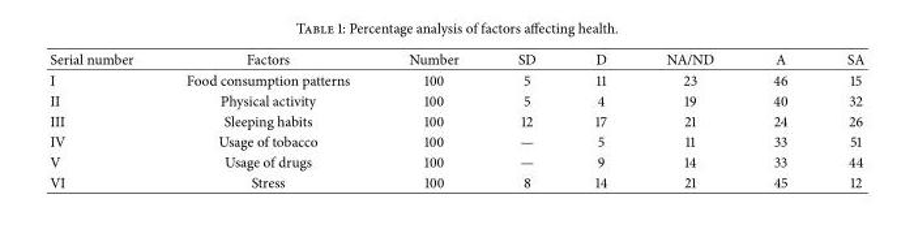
<table><thead><tr><td>Serial number</td><td>Factors</td><td>Number</td><td>SD</td><td>D</td><td>NA/ND</td><td>A</td><td>SA</td></tr></thead><tbody><tr><td>I</td><td>Food consumption patterns</td><td>100</td><td>5</td><td>11</td><td>23</td><td>46</td><td>15</td></tr><tr><td>II</td><td>Physical activity</td><td>100</td><td>5</td><td>4</td><td>19</td><td>40</td><td>32</td></tr><tr><td>III</td><td>Sleeping habits</td><td>100</td><td>12</td><td>17</td><td>21</td><td>24</td><td>26</td></tr><tr><td>IV</td><td>Usage of tobacco</td><td>100</td><td>—</td><td>5</td><td>11</td><td>33</td><td>51</td></tr><tr><td>V</td><td>Usage of drugs</td><td>100</td><td>—</td><td>9</td><td>14</td><td>33</td><td>44</td></tr><tr><td>VI</td><td>Stress</td><td>100</td><td>8</td><td>14</td><td>21</td><td>45</td><td>12</td></tr></tbody></table>